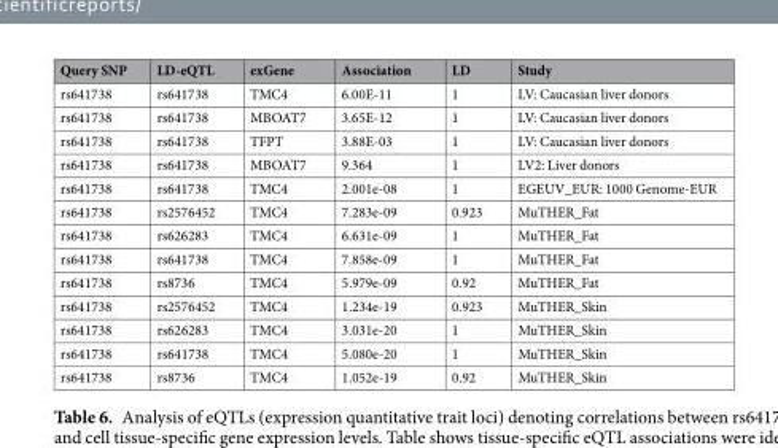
<table><thead><tr><td>Query SNP</td><td>LD-eQTL</td><td>exGene</td><td>Association</td><td>LD</td><td>Study</td></tr></thead><tbody><tr><td>rs641738</td><td>rs641738</td><td>TMC4</td><td>6.00E-11</td><td>1</td><td>LV: Caucasian liver donors</td></tr><tr><td>rs641738</td><td>rs641738</td><td>MBOAT7</td><td>3.65E-12</td><td>1</td><td>LV: Caucasian liver donors</td></tr><tr><td>rs641738</td><td>rs641738</td><td>TFPT</td><td>3.88E-03</td><td>1</td><td>LV: Caucasian liver donors</td></tr><tr><td>rs641738</td><td>rs641738</td><td>MBOAT7</td><td>9.364</td><td>1</td><td>LV2: Liver donors</td></tr><tr><td>rs641738</td><td>rs641738</td><td>TMC4</td><td>2.001e-08</td><td>1</td><td>EGEUV_EUR: 1000 Genome-EUR</td></tr><tr><td>rs641738</td><td>rs2576452</td><td>TMC4</td><td>7.283e-09</td><td>0.923</td><td>MuTHER_Fat</td></tr><tr><td>rs641738</td><td>rs626283</td><td>TMC4</td><td>6.631e-09</td><td>1</td><td>MuTHER_Fat</td></tr><tr><td>rs641738</td><td>rs641738</td><td>TMC4</td><td>7.858e-09</td><td>1</td><td>MuTHER_Fat</td></tr><tr><td>rs641738</td><td>rs8736</td><td>TMC4</td><td>5.979e-09</td><td>0.92</td><td>MuTHER_Fat</td></tr><tr><td>rs641738</td><td>rs2576452</td><td>TMC4</td><td>1.234e-19</td><td>0.923</td><td>MuTHER_Skin</td></tr><tr><td>rs641738</td><td>rs626283</td><td>TMC4</td><td>3.031e-20</td><td>1</td><td>MuTHER_Skin</td></tr><tr><td>rs641738</td><td>rs641738</td><td>TMC4</td><td>5.080e-20</td><td>1</td><td>MuTHER_Skin</td></tr><tr><td>rs641738</td><td>rs8736</td><td>TMC4</td><td>1.052e-19</td><td>0.92</td><td>MuTHER_Skin</td></tr></tbody></table>